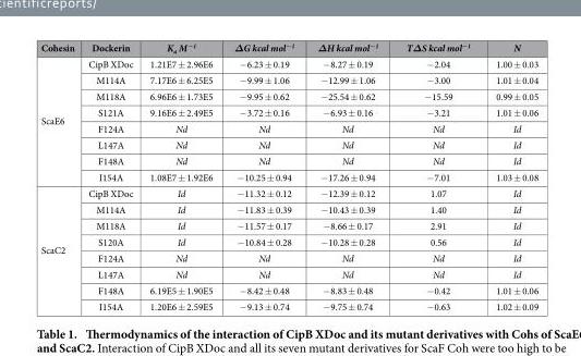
<table><thead><tr><td>Cohesin</td><td>Dockerin</td><td>K<sub>a</sub> M<sup>−1</sup></td><td>ΔG kcal mol<sup>−1</sup></td><td>ΔH kcal mol<sup>−1</sup></td><td>TΔS kcal mol<sup>−1</sup></td><td>N</td></tr></thead><tbody><tr><td rowspan="8">ScaE6</td><td>CipB XDoc</td><td>1.21E7 ± 2.96E6</td><td>− 6.23 ± 0.19</td><td>− 8.27 ± 0.19</td><td>− 2.04</td><td>1.00 ± 0.03</td></tr><tr><td>M114A</td><td>7.17E6 ± 6.25E5</td><td>− 9.99 ± 1.06</td><td>− 12.99 ± 1.06</td><td>− 3.00</td><td>1.01 ± 0.04</td></tr><tr><td>M118A</td><td>6.96E6 ± 1.73E5</td><td>− 9.95 ± 0.62</td><td>− 25.54 ± 0.62</td><td>− 15.59</td><td>0.99 ± 0.05</td></tr><tr><td>S121A</td><td>9.16E6 ± 2.49E5</td><td>− 3.72 ± 0.16</td><td>− 6.93 ± 0.16</td><td>− 3.21</td><td>1.01 ± 0.06</td></tr><tr><td>F124A</td><td>Nd</td><td>Nd</td><td>Nd</td><td>Nd</td><td>Id</td></tr><tr><td>L147A</td><td>Nd</td><td>Nd</td><td>Nd</td><td>Nd</td><td>Id</td></tr><tr><td>F148A</td><td>Nd</td><td>Nd</td><td>Nd</td><td>Nd</td><td>Id</td></tr><tr><td>I154A</td><td>1.08E7 ± 1.92E6</td><td>− 10.25 ± 0.94</td><td>− 17.26 ± 0.94</td><td>− 7.01</td><td>1.03 ± 0.08</td></tr><tr><td rowspan="8">ScaC2</td><td>CipB XDoc</td><td>Id</td><td>− 11.32 ± 0.12</td><td>− 12.39 ± 0.12</td><td>1.07</td><td>Id</td></tr><tr><td>M114A</td><td>Id</td><td>− 11.83 ± 0.39</td><td>− 10.43 ± 0.39</td><td>1.40</td><td>Id</td></tr><tr><td>M118A</td><td>Id</td><td>− 11.57 ± 0.17</td><td>− 8.66 ± 0.17</td><td>2.91</td><td>Id</td></tr><tr><td>S120A</td><td>Id</td><td>− 10.84 ± 0.28</td><td>− 10.28 ± 0.28</td><td>0.56</td><td>Id</td></tr><tr><td>F124A</td><td>Nd</td><td>Nd</td><td>Nd</td><td>Nd</td><td>Id</td></tr><tr><td>L147A</td><td>Nd</td><td>Nd</td><td>Nd</td><td>Nd</td><td>Id</td></tr><tr><td>F148A</td><td>6.19E5 ± 1.90E5</td><td>− 8.42 ± 0.48</td><td>− 8.83 ± 0.48</td><td>− 0.42</td><td>1.01 ± 0.06</td></tr><tr><td>I154A</td><td>1.20E6 ± 2.59E5</td><td>− 9.13 ± 0.74</td><td>− 9.75 ± 0.74</td><td>− 0.63</td><td>1.02 ± 0.09</td></tr></tbody></table>